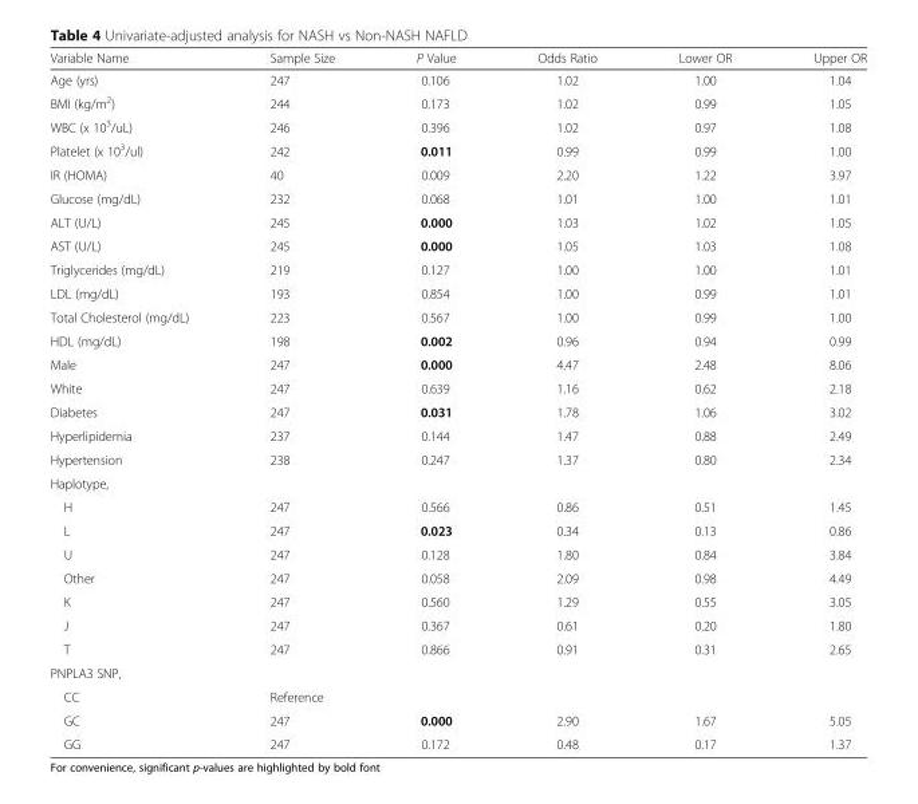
<table><thead><tr><td>Variable Name</td><td>Sample Size</td><td>P Value</td><td>Odds Ratio</td><td>Lower OR</td><td>Upper OR</td></tr></thead><tbody><tr><td>Age (yrs)</td><td>247</td><td>0.106</td><td>1.02</td><td>1.00</td><td>1.04</td></tr><tr><td>BMI (kg/m<sup>2</sup>)</td><td>244</td><td>0.173</td><td>1.02</td><td>0.99</td><td>1.05</td></tr><tr><td>WBC (x 10<sup>3</sup>/uL)</td><td>246</td><td>0.396</td><td>1.02</td><td>0.97</td><td>1.08</td></tr><tr><td>Platelet (x 10<sup>3</sup>/ul)</td><td>242</td><td>0.011</td><td>0.99</td><td>0.99</td><td>1.00</td></tr><tr><td>IR (HOMA)</td><td>40</td><td>0.009</td><td>2.20</td><td>1.22</td><td>3.97</td></tr><tr><td>Glucose (mg/dL)</td><td>232</td><td>0.068</td><td>1.01</td><td>1.00</td><td>1.01</td></tr><tr><td>ALT (U/L)</td><td>245</td><td>0.000</td><td>1.03</td><td>1.02</td><td>1.05</td></tr><tr><td>AST (U/L)</td><td>245</td><td>0.000</td><td>1.05</td><td>1.03</td><td>1.08</td></tr><tr><td>Triglycerides (mg/dL)</td><td>219</td><td>0.127</td><td>1.00</td><td>1.00</td><td>1.01</td></tr><tr><td>LDL (mg/dL)</td><td>193</td><td>0.854</td><td>1.00</td><td>0.99</td><td>1.01</td></tr><tr><td>Total Cholesterol (mg/dL)</td><td>223</td><td>0.567</td><td>1.00</td><td>0.99</td><td>1.00</td></tr><tr><td>HDL (mg/dL)</td><td>198</td><td>0.002</td><td>0.96</td><td>0.94</td><td>0.99</td></tr><tr><td>Male</td><td>247</td><td>0.000</td><td>4.47</td><td>2.48</td><td>8.06</td></tr><tr><td>White</td><td>247</td><td>0.639</td><td>1.16</td><td>0.62</td><td>2.18</td></tr><tr><td>Diabetes</td><td>247</td><td>0.031</td><td>1.78</td><td>1.06</td><td>3.02</td></tr><tr><td>Hyperlipidemia</td><td>237</td><td>0.144</td><td>1.47</td><td>0.88</td><td>2.49</td></tr><tr><td>Hypertension</td><td>238</td><td>0.247</td><td>1.37</td><td>0.80</td><td>2.34</td></tr><tr><td colspan="6">Haplotype,</td></tr><tr><td>H</td><td>247</td><td>0.566</td><td>0.86</td><td>0.51</td><td>1.45</td></tr><tr><td>L</td><td>247</td><td>0.023</td><td>0.34</td><td>0.13</td><td>0.86</td></tr><tr><td>U</td><td>247</td><td>0.128</td><td>1.80</td><td>0.84</td><td>3.84</td></tr><tr><td>Other</td><td>247</td><td>0.058</td><td>2.09</td><td>0.98</td><td>4.49</td></tr><tr><td>K</td><td>247</td><td>0.560</td><td>1.29</td><td>0.55</td><td>3.05</td></tr><tr><td>J</td><td>247</td><td>0.367</td><td>0.61</td><td>0.20</td><td>1.80</td></tr><tr><td>T</td><td>247</td><td>0.866</td><td>0.91</td><td>0.31</td><td>2.65</td></tr><tr><td colspan="6">PNPLA3 SNP,</td></tr><tr><td>CC</td><td colspan="5">Reference</td></tr><tr><td>GC</td><td>247</td><td>0.000</td><td>2.90</td><td>1.67</td><td>5.05</td></tr><tr><td>GG</td><td>247</td><td>0.172</td><td>0.48</td><td>0.17</td><td>1.37</td></tr></tbody></table>